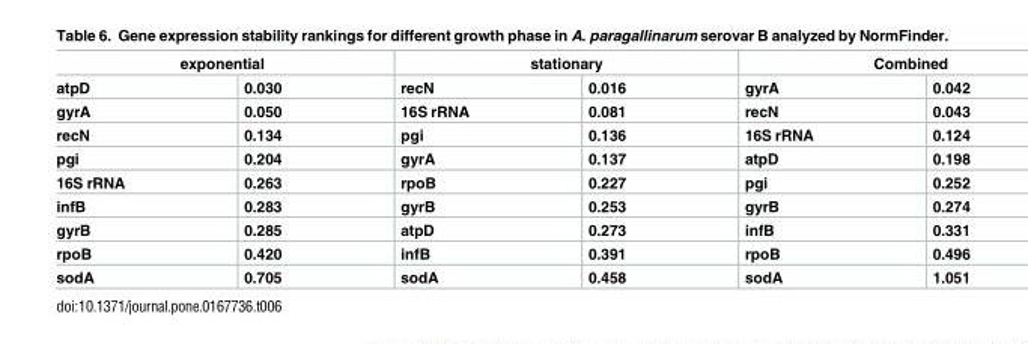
<table><thead><tr><td colspan="2">exponential</td><td colspan="2">stationary</td><td colspan="2">Combined</td></tr><tr><td>atpD</td><td>0.030</td><td>recN</td><td>0.016</td><td>gyrA</td><td>0.042</td></tr></thead><tbody><tr><td>gyrA</td><td>0.050</td><td>16S rRNA</td><td>0.081</td><td>recN</td><td>0.043</td></tr><tr><td>recN</td><td>0.134</td><td>pgi</td><td>0.136</td><td>16S rRNA</td><td>0.124</td></tr><tr><td>pgi</td><td>0.204</td><td>gyrA</td><td>0.137</td><td>atpD</td><td>0.198</td></tr><tr><td>16S rRNA</td><td>0.263</td><td>rpoB</td><td>0.227</td><td>pgi</td><td>0.252</td></tr><tr><td>infB</td><td>0.283</td><td>gyrB</td><td>0.253</td><td>gyrB</td><td>0.274</td></tr><tr><td>gyrB</td><td>0.285</td><td>atpD</td><td>0.273</td><td>infB</td><td>0.331</td></tr><tr><td>rpoB</td><td>0.420</td><td>infB</td><td>0.391</td><td>rpoB</td><td>0.496</td></tr><tr><td>sodA</td><td>0.705</td><td>sodA</td><td>0.458</td><td>sodA</td><td>1.051</td></tr></tbody></table>